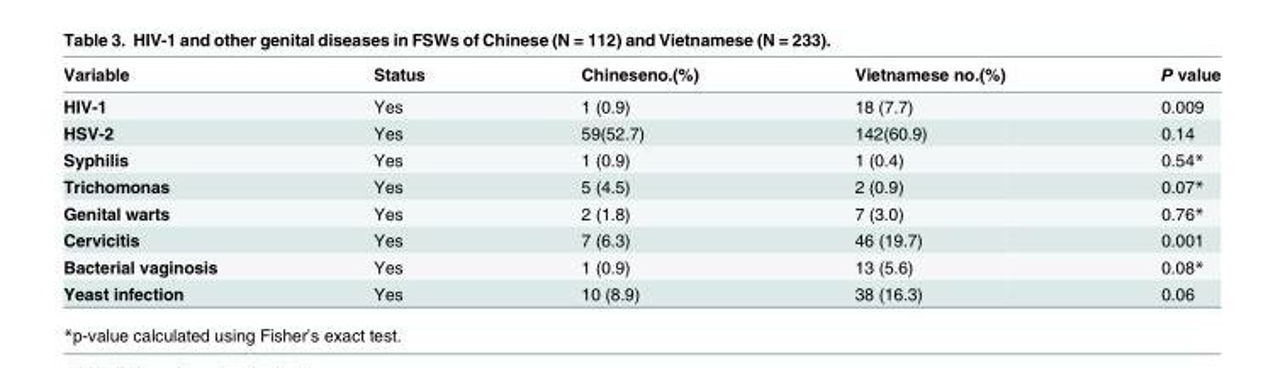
<table><thead><tr><td>Variable</td><td>Status</td><td>Chineseno.(%)</td><td>Vietnamese no.(%)</td><td>P value</td></tr></thead><tbody><tr><td>HIV-1</td><td>Yes</td><td>1 (0.9)</td><td>18 (7.7)</td><td>0.009</td></tr><tr><td>HSV-2</td><td>Yes</td><td>59(52.7)</td><td>142(60.9)</td><td>0.14</td></tr><tr><td>Syphilis</td><td>Yes</td><td>1 (0.9)</td><td>1 (0.4)</td><td>0.54*</td></tr><tr><td>Trichomonas</td><td>Yes</td><td>5 (4.5)</td><td>2 (0.9)</td><td>0.07*</td></tr><tr><td>Genital warts</td><td>Yes</td><td>2 (1.8)</td><td>7 (3.0)</td><td>0.76*</td></tr><tr><td>Cervicitis</td><td>Yes</td><td>7 (6.3)</td><td>46 (19.7)</td><td>0.001</td></tr><tr><td>Bacterial vaginosis</td><td>Yes</td><td>1 (0.9)</td><td>13 (5.6)</td><td>0.08*</td></tr><tr><td>Yeast infection</td><td>Yes</td><td>10 (8.9)</td><td>38 (16.3)</td><td>0.06</td></tr></tbody></table>